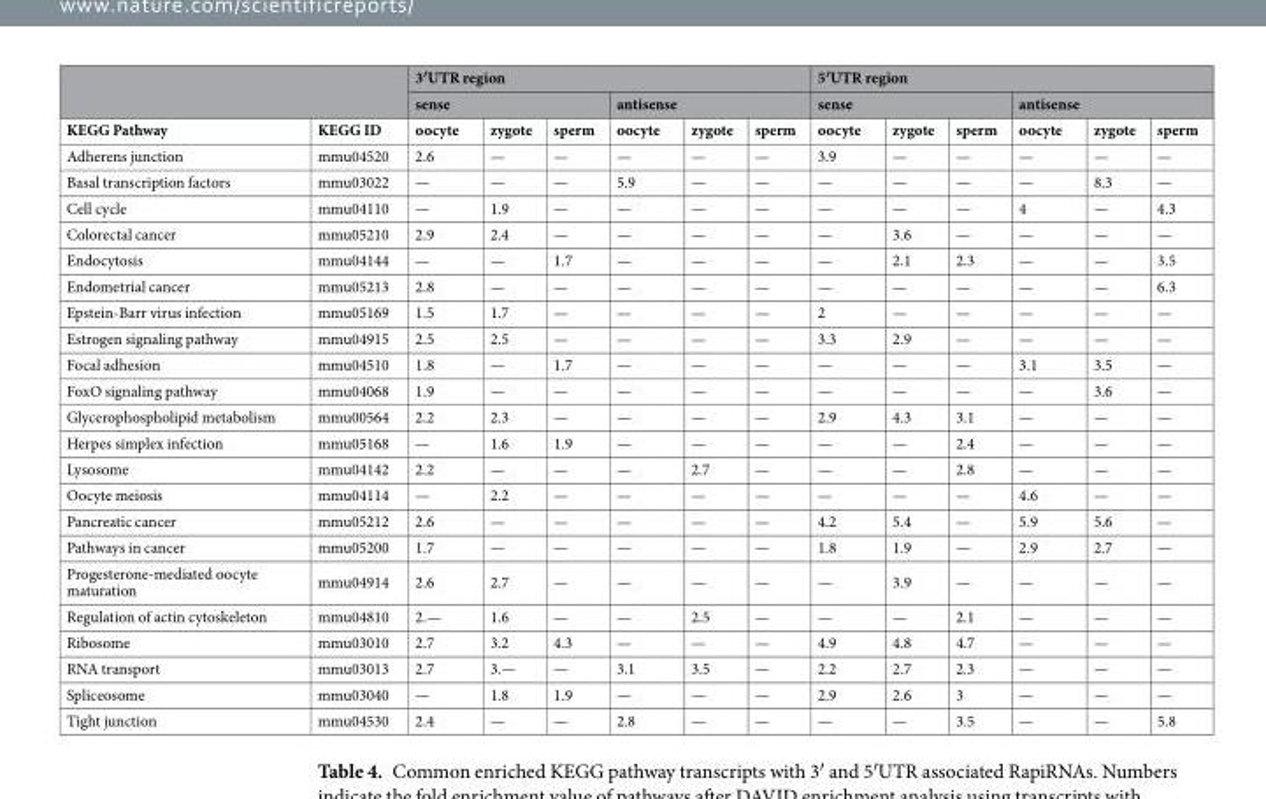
<table><thead><tr><td rowspan="3">KEGG Pathway</td><td rowspan="3">KEGG ID</td><td colspan="6">3′UTR region</td><td colspan="6">5′UTR region</td></tr><tr><td colspan="3">sense</td><td colspan="3">antisense</td><td colspan="3">sense</td><td colspan="3">antisense</td></tr><tr><td>oocyte</td><td>zygote</td><td>sperm</td><td>oocyte</td><td>zygote</td><td>sperm</td><td>oocyte</td><td>zygote</td><td>sperm</td><td>oocyte</td><td>zygote</td><td>sperm</td></tr></thead><tbody><tr><td>Adherens junction</td><td>mmu04520</td><td>2.6</td><td>—</td><td>—</td><td>—</td><td>—</td><td>—</td><td>3.9</td><td>—</td><td>—</td><td>—</td><td>—</td><td>—</td></tr><tr><td>Basal transcription factors</td><td>mmu03022</td><td>—</td><td>—</td><td>—</td><td>5.9</td><td>—</td><td>—</td><td>—</td><td>—</td><td>—</td><td>—</td><td>8.3</td><td>—</td></tr><tr><td>Cell cycle</td><td>mmu04110</td><td>—</td><td>1.9</td><td>—</td><td>—</td><td>—</td><td>—</td><td>—</td><td>—</td><td>—</td><td>4</td><td>—</td><td>4.3</td></tr><tr><td>Colorectal cancer</td><td>mmu05210</td><td>2.9</td><td>2.4</td><td>—</td><td>—</td><td>—</td><td>—</td><td>—</td><td>3.6</td><td>—</td><td>—</td><td>—</td><td>—</td></tr><tr><td>Endocytosis</td><td>mmu04144</td><td>—</td><td>—</td><td>1.7</td><td>—</td><td>—</td><td>—</td><td>—</td><td>2.1</td><td>2.3</td><td>—</td><td>—</td><td>3.5</td></tr><tr><td>Endometrial cancer</td><td>mmu05213</td><td>2.8</td><td>—</td><td>—</td><td>—</td><td>—</td><td>—</td><td>—</td><td>—</td><td>—</td><td>—</td><td>—</td><td>6.3</td></tr><tr><td>Epstein-Barr virus infection</td><td>mmu05169</td><td>1.5</td><td>1.7</td><td>—</td><td>—</td><td>—</td><td>—</td><td>2</td><td>—</td><td>—</td><td>—</td><td>—</td><td>—</td></tr><tr><td>Estrogen signaling pathway</td><td>mmu04915</td><td>2.5</td><td>2.5</td><td>—</td><td>—</td><td>—</td><td>—</td><td>3.3</td><td>2.9</td><td>—</td><td>—</td><td>—</td><td>—</td></tr><tr><td>Focal adhesion</td><td>mmu04510</td><td>1.8</td><td>—</td><td>1.7</td><td>—</td><td>—</td><td>—</td><td>—</td><td>—</td><td>—</td><td>3.1</td><td>3.5</td><td>—</td></tr><tr><td>FoxO signaling pathway</td><td>mmu04068</td><td>1.9</td><td>—</td><td>—</td><td>—</td><td>—</td><td>—</td><td>—</td><td>—</td><td>—</td><td>—</td><td>3.6</td><td>—</td></tr><tr><td>Glycerophospholipid metabolism</td><td>mmu00564</td><td>2.2</td><td>2.3</td><td>—</td><td>—</td><td>—</td><td>—</td><td>2.9</td><td>4.3</td><td>3.1</td><td>—</td><td>—</td><td>—</td></tr><tr><td>Herpes simplex infection</td><td>mmu05168</td><td>—</td><td>1.6</td><td>1.9</td><td>—</td><td>—</td><td>—</td><td>—</td><td>—</td><td>2.4</td><td>—</td><td>—</td><td>—</td></tr><tr><td>Lysosome</td><td>mmu04142</td><td>2.2</td><td>—</td><td>—</td><td>—</td><td>2.7</td><td>—</td><td>—</td><td>—</td><td>2.8</td><td>—</td><td>—</td><td>—</td></tr><tr><td>Oocyte meiosis</td><td>mmu04114</td><td>—</td><td>2.2</td><td>—</td><td>—</td><td>—</td><td>—</td><td>—</td><td>—</td><td>—</td><td>4.6</td><td>—</td><td>—</td></tr><tr><td>Pancreatic cancer</td><td>mmu05212</td><td>2.6</td><td>—</td><td>—</td><td>—</td><td>—</td><td>—</td><td>4.2</td><td>5.4</td><td>—</td><td>5.9</td><td>5.6</td><td>—</td></tr><tr><td>Pathways in cancer</td><td>mmu05200</td><td>1.7</td><td>—</td><td>—</td><td>—</td><td>—</td><td>—</td><td>1.8</td><td>1.9</td><td>—</td><td>2.9</td><td>2.7</td><td>—</td></tr><tr><td>Progesterone-mediated oocyte maturation</td><td>mmu04914</td><td>2.6</td><td>2.7</td><td>—</td><td>—</td><td>—</td><td>—</td><td>—</td><td>3.9</td><td>—</td><td>—</td><td>—</td><td>—</td></tr><tr><td>Regulation of actin cytoskeleton</td><td>mmu04810</td><td>2.—</td><td>1.6</td><td>—</td><td>—</td><td>2.5</td><td>—</td><td>—</td><td>—</td><td>2.1</td><td>—</td><td>—</td><td>—</td></tr><tr><td>Ribosome</td><td>mmu03010</td><td>2.7</td><td>3.2</td><td>4.3</td><td>—</td><td>—</td><td>—</td><td>4.9</td><td>4.8</td><td>4.7</td><td>—</td><td>—</td><td>—</td></tr><tr><td>RNA transport</td><td>mmu03013</td><td>2.7</td><td>3.—</td><td>—</td><td>3.1</td><td>3.5</td><td>—</td><td>2.2</td><td>2.7</td><td>2.3</td><td>—</td><td>—</td><td>—</td></tr><tr><td>Spliceosome</td><td>mmu03040</td><td>—</td><td>1.8</td><td>1.9</td><td>—</td><td>—</td><td>—</td><td>2.9</td><td>2.6</td><td>3</td><td>—</td><td>—</td><td>—</td></tr><tr><td>Tight junction</td><td>mmu04530</td><td>2.4</td><td>—</td><td>—</td><td>2.8</td><td>—</td><td>—</td><td>—</td><td>—</td><td>3.5</td><td>—</td><td>—</td><td>5.8</td></tr></tbody></table>